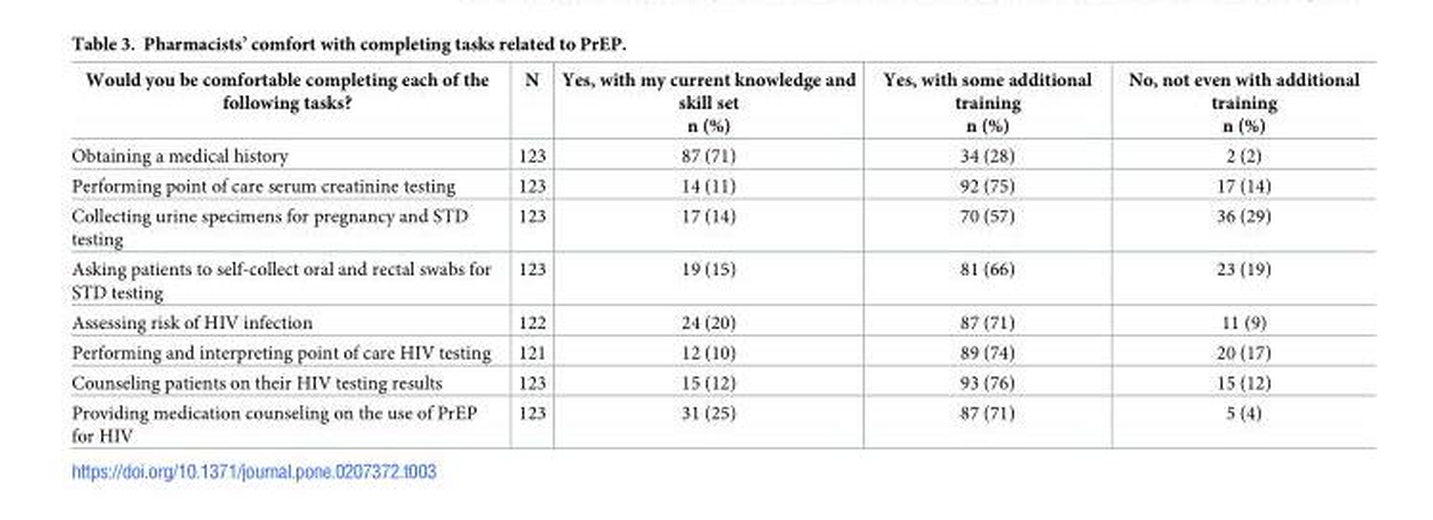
<table><thead><tr><td>Would you be comfortable completing each of the following tasks?</td><td>N</td><td>Yes, with my current knowledge and skill set n (%)</td><td>Yes, with some additional training n (%)</td><td>No, not even with additional training n (%)</td></tr></thead><tbody><tr><td>Obtaining a medical history</td><td>123</td><td>87 (71)</td><td>34 (28)</td><td>2 (2)</td></tr><tr><td>Performing point of care serum creatinine testing</td><td>123</td><td>14 (11)</td><td>92 (75)</td><td>17 (14)</td></tr><tr><td>Collecting urine specimens for pregnancy and STD testing</td><td>123</td><td>17 (14)</td><td>70 (57)</td><td>36 (29)</td></tr><tr><td>Asking patients to self-collect oral and rectal swabs for STD testing</td><td>123</td><td>19 (15)</td><td>81 (66)</td><td>23 (19)</td></tr><tr><td>Assessing risk of HIV infection</td><td>122</td><td>24 (20)</td><td>87 (71)</td><td>11 (9)</td></tr><tr><td>Performing and interpreting point of care HIV testing</td><td>121</td><td>12 (10)</td><td>89 (74)</td><td>20 (17)</td></tr><tr><td>Counseling patients on their HIV testing results</td><td>123</td><td>15 (12)</td><td>93 (76)</td><td>15 (12)</td></tr><tr><td>Providing medication counseling on the use of PrEP for HIV</td><td>123</td><td>31 (25)</td><td>87 (71)</td><td>5 (4)</td></tr></tbody></table>